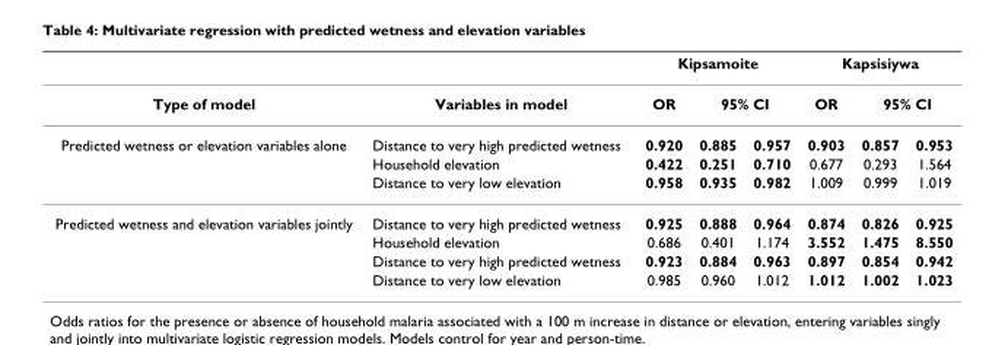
<table><thead><tr><td rowspan="3">Type of model Predicted wetness or elevation variables alone</td><td rowspan="3">Variables in model Distance to very high predicted wetness</td><td colspan="3">Kipsamoite</td><td colspan="3">Kapsisiywa</td></tr><tr><td rowspan="2">OR 0.920</td><td colspan="2">95% CI</td><td rowspan="2">OR 0.903</td><td colspan="2">95% CI</td></tr><tr><td>0.885</td><td>0.957</td><td>0.857</td><td>0.953</td></tr></thead><tbody><tr><td></td><td>Household elevation</td><td>0.422</td><td>0.251</td><td>0.710</td><td>0.677</td><td>0.293</td><td>1.564</td></tr><tr><td></td><td>Distance to very low elevation</td><td>0.958</td><td>0.935</td><td>0.982</td><td>1.009</td><td>0.999</td><td>1.019</td></tr><tr><td rowspan="4">Predicted wetness and elevation variables jointly</td><td>Distance to very high predicted wetness</td><td>0.925</td><td>0.888</td><td>0.964</td><td>0.874</td><td>0.826</td><td>0.925</td></tr><tr><td>Household elevation</td><td>0.686</td><td>0.401</td><td>1.174</td><td>3.552</td><td>1.475</td><td>8.550</td></tr><tr><td>Distance to very high predicted wetness</td><td>0.923</td><td>0.884</td><td>0.963</td><td>0.897</td><td>0.854</td><td>0.942</td></tr><tr><td>Distance to very low elevation</td><td>0.985</td><td>0.960</td><td>1.012</td><td>1.012</td><td>1.002</td><td>1.023</td></tr></tbody></table>